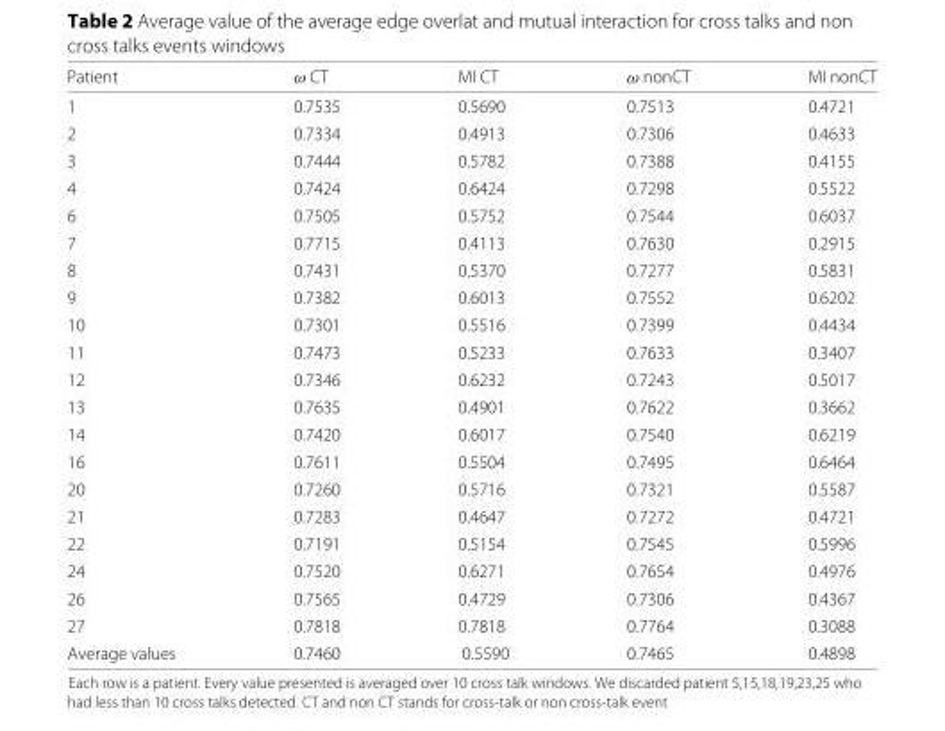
<table><thead><tr><td>Patient</td><td>ω CT</td><td>MI CT</td><td>ω nonCT</td><td>MI nonCT</td></tr></thead><tbody><tr><td>1</td><td>0.7535</td><td>0.5690</td><td>0.7513</td><td>0.4721</td></tr><tr><td>2</td><td>0.7334</td><td>0.4913</td><td>0.7306</td><td>0.4633</td></tr><tr><td>3</td><td>0.7444</td><td>0.5782</td><td>0.7388</td><td>0.4155</td></tr><tr><td>4</td><td>0.7424</td><td>0.6424</td><td>0.7298</td><td>0.5522</td></tr><tr><td>6</td><td>0.7505</td><td>0.5752</td><td>0.7544</td><td>0.6037</td></tr><tr><td>7</td><td>0.7715</td><td>0.4113</td><td>0.7630</td><td>0.2915</td></tr><tr><td>8</td><td>0.7431</td><td>0.5370</td><td>0.7277</td><td>0.5831</td></tr><tr><td>9</td><td>0.7382</td><td>0.6013</td><td>0.7552</td><td>0.6202</td></tr><tr><td>10</td><td>0.7301</td><td>0.5516</td><td>0.7399</td><td>0.4434</td></tr><tr><td>11</td><td>0.7473</td><td>0.5233</td><td>0.7633</td><td>0.3407</td></tr><tr><td>12</td><td>0.7346</td><td>0.6232</td><td>0.7243</td><td>0.5017</td></tr><tr><td>13</td><td>0.7635</td><td>0.4901</td><td>0.7622</td><td>0.3662</td></tr><tr><td>14</td><td>0.7420</td><td>0.6017</td><td>0.7540</td><td>0.6219</td></tr><tr><td>16</td><td>0.7611</td><td>0.5504</td><td>0.7495</td><td>0.6464</td></tr><tr><td>20</td><td>0.7260</td><td>0.5716</td><td>0.7321</td><td>0.5587</td></tr><tr><td>21</td><td>0.7283</td><td>0.4647</td><td>0.7272</td><td>0.4721</td></tr><tr><td>22</td><td>0.7191</td><td>0.5154</td><td>0.7545</td><td>0.5996</td></tr><tr><td>24</td><td>0.7520</td><td>0.6271</td><td>0.7654</td><td>0.4976</td></tr><tr><td>26</td><td>0.7565</td><td>0.4729</td><td>0.7306</td><td>0.4367</td></tr><tr><td>27</td><td>0.7818</td><td>0.7818</td><td>0.7764</td><td>0.3088</td></tr><tr><td>Average values</td><td>0.7460</td><td>0.5590</td><td>0.7465</td><td>0.4898</td></tr></tbody></table>